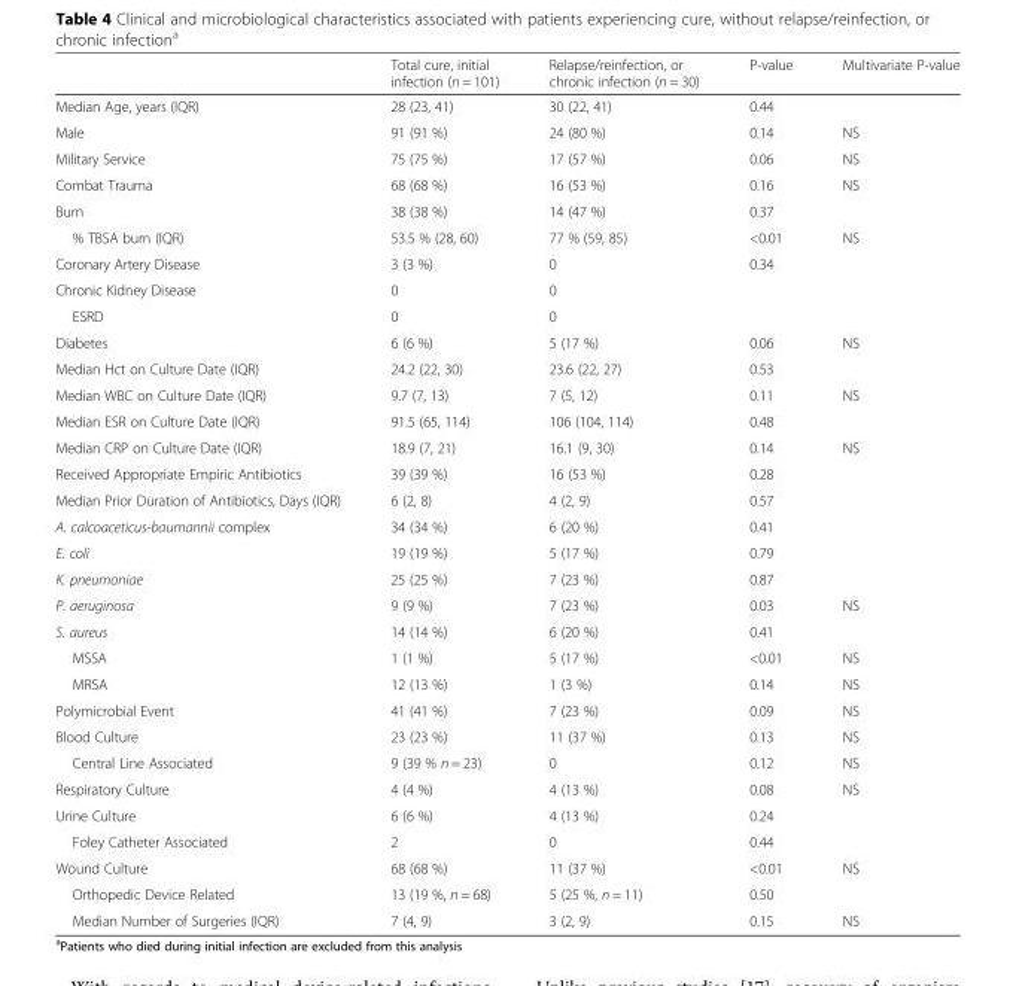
<table><thead><tr><td></td><td>Total cure, initial infection (n = 101)</td><td>Relapse/reinfection, or chronic infection (n = 30)</td><td>P-value</td><td>Multivariate P-value</td></tr></thead><tbody><tr><td>Median Age, years (IQR)</td><td>28 (23, 41)</td><td>30 (22, 41)</td><td>0.44</td><td></td></tr><tr><td>Male</td><td>91 (91 %)</td><td>24 (80 %)</td><td>0.14</td><td>NS</td></tr><tr><td>Military Service</td><td>75 (75 %)</td><td>17 (57 %)</td><td>0.06</td><td>NS</td></tr><tr><td>Combat Trauma</td><td>68 (68 %)</td><td>16 (53 %)</td><td>0.16</td><td>NS</td></tr><tr><td>Burn</td><td>38 (38 %)</td><td>14 (47 %)</td><td>0.37</td><td></td></tr><tr><td>% TBSA burn (IQR)</td><td>53.5 % (28, 60)</td><td>77 % (59, 85)</td><td>&lt;0.01</td><td>NS</td></tr><tr><td>Coronary Artery Disease</td><td>3 (3 %)</td><td>0</td><td>0.34</td><td></td></tr><tr><td>Chronic Kidney Disease</td><td>0</td><td>0</td><td></td><td></td></tr><tr><td>ESRD</td><td>0</td><td>0</td><td></td><td></td></tr><tr><td>Diabetes</td><td>6 (6 %)</td><td>5 (17 %)</td><td>0.06</td><td>NS</td></tr><tr><td>Median Hct on Culture Date (IQR)</td><td>24.2 (22, 30)</td><td>23.6 (22, 27)</td><td>0.53</td><td></td></tr><tr><td>Median WBC on Culture Date (IQR)</td><td>9.7 (7, 13)</td><td>7 (5, 12)</td><td>0.11</td><td>NS</td></tr><tr><td>Median ESR on Culture Date (IQR)</td><td>91.5 (65, 114)</td><td>106 (104, 114)</td><td>0.48</td><td></td></tr><tr><td>Median CRP on Culture Date (IQR)</td><td>18.9 (7, 21)</td><td>16.1 (9, 30)</td><td>0.14</td><td>NS</td></tr><tr><td>Received Appropriate Empiric Antibiotics</td><td>39 (39 %)</td><td>16 (53 %)</td><td>0.28</td><td></td></tr><tr><td>Median Prior Duration of Antibiotics, Days (IQR)</td><td>6 (2, 8)</td><td>4 (2, 9)</td><td>0.57</td><td></td></tr><tr><td>A. calcoaceticus-baumannii complex</td><td>34 (34 %)</td><td>6 (20 %)</td><td>0.41</td><td></td></tr><tr><td>E. coli</td><td>19 (19 %)</td><td>5 (17 %)</td><td>0.79</td><td></td></tr><tr><td>K. pneumoniae</td><td>25 (25 %)</td><td>7 (23 %)</td><td>0.87</td><td></td></tr><tr><td>P. aeruginosa</td><td>9 (9 %)</td><td>7 (23 %)</td><td>0.03</td><td>NS</td></tr><tr><td>S. aureus</td><td>14 (14 %)</td><td>6 (20 %)</td><td>0.41</td><td></td></tr><tr><td>MSSA</td><td>1 (1 %)</td><td>5 (17 %)</td><td>&lt;0.01</td><td>NS</td></tr><tr><td>MRSA</td><td>12 (13 %)</td><td>1 (3 %)</td><td>0.14</td><td>NS</td></tr><tr><td>Polymicrobial Event</td><td>41 (41 %)</td><td>7 (23 %)</td><td>0.09</td><td>NS</td></tr><tr><td>Blood Culture</td><td>23 (23 %)</td><td>11 (37 %)</td><td>0.13</td><td>NS</td></tr><tr><td>Central Line Associated</td><td>9 (39 % n = 23)</td><td>0</td><td>0.12</td><td>NS</td></tr><tr><td>Respiratory Culture</td><td>4 (4 %)</td><td>4 (13 %)</td><td>0.08</td><td>NS</td></tr><tr><td>Urine Culture</td><td>6 (6 %)</td><td>4 (13 %)</td><td>0.24</td><td></td></tr><tr><td>Foley Catheter Associated</td><td>2</td><td>0</td><td>0.44</td><td></td></tr><tr><td>Wound Culture</td><td>68 (68 %)</td><td>11 (37 %)</td><td>&lt;0.01</td><td>NS</td></tr><tr><td>Orthopedic Device Related</td><td>13 (19 %, n = 68)</td><td>5 (25 %, n = 11)</td><td>0.50</td><td></td></tr><tr><td>Median Number of Surgeries (IQR)</td><td>7 (4, 9)</td><td>3 (2, 9)</td><td>0.15</td><td>NS</td></tr></tbody></table>